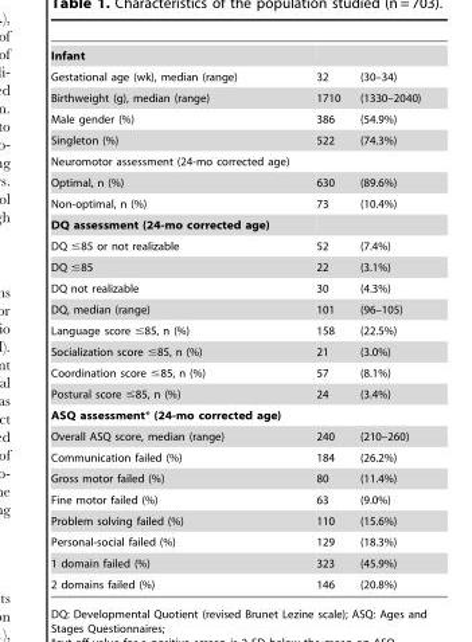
<table><tbody><tr><td colspan="3">Infant</td></tr><tr><td>Gestational age (wk), median (range)</td><td>32</td><td>(30–34)</td></tr><tr><td>Birthweight (g), median (range)</td><td>1710</td><td>(1330–2040)</td></tr><tr><td>Male gender (%)</td><td>386</td><td>(54.9%)</td></tr><tr><td>Singleton (%)</td><td>522</td><td>(74.3%)</td></tr><tr><td colspan="3">Neuromotor assessment (24-mo corrected age)</td></tr><tr><td>Optimal, n (%)</td><td>630</td><td>(89.6%)</td></tr><tr><td>Non-optimal, n (%)</td><td>73</td><td>(10.4%)</td></tr><tr><td colspan="3">DQ assessment (24-mo corrected age)</td></tr><tr><td>DQ ≤85 or not realizable</td><td>52</td><td>(7.4%)</td></tr><tr><td>DQ ≤85</td><td>22</td><td>(3.1%)</td></tr><tr><td>DQ not realizable</td><td>30</td><td>(4.3%)</td></tr><tr><td>DQ, median (range)</td><td>101</td><td>(96–105)</td></tr><tr><td>Language score ≤85, n (%)</td><td>158</td><td>(22.5%)</td></tr><tr><td>Socialization score ≤85, n (%)</td><td>21</td><td>(3.0%)</td></tr><tr><td>Coordination score ≤85, n (%)</td><td>57</td><td>(8.1%)</td></tr><tr><td>Postural score ≤85, n (%)</td><td>24</td><td>(3.4%)</td></tr><tr><td colspan="3">ASQ assessment* (24-mo corrected age)</td></tr><tr><td>Overall ASQ score, median (range)</td><td>240</td><td>(210–260)</td></tr><tr><td>Communication failed (%)</td><td>184</td><td>(26.2%)</td></tr><tr><td>Gross motor failed (%)</td><td>80</td><td>(11.4%)</td></tr><tr><td>Fine motor failed (%)</td><td>63</td><td>(9.0%)</td></tr><tr><td>Problem solving failed (%)</td><td>110</td><td>(15.6%)</td></tr><tr><td>Personal-social failed (%)</td><td>129</td><td>(18.3%)</td></tr><tr><td>1 domain failed (%)</td><td>323</td><td>(45.9%)</td></tr><tr><td>2 domains failed (%)</td><td>146</td><td>(20.8%)</td></tr></tbody></table>